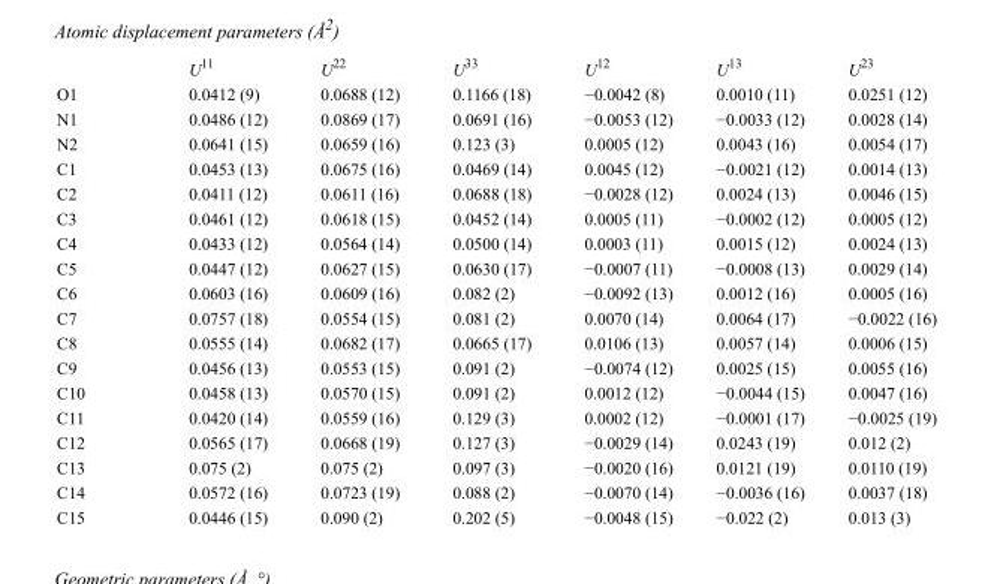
<table><thead><tr><td></td><td>U<sup>11</sup></td><td>U<sup>22</sup></td><td>U<sup>33</sup></td><td>U<sup>12</sup></td><td>U<sup>13</sup></td><td>U<sup>23</sup></td></tr></thead><tbody><tr><td>O1</td><td>0.0412 (9)</td><td>0.0688 (12)</td><td>0.1166 (18)</td><td>−0.0042 (8)</td><td>0.0010 (11)</td><td>0.0251 (12)</td></tr><tr><td>N1</td><td>0.0486 (12)</td><td>0.0869 (17)</td><td>0.0691 (16)</td><td>−0.0053 (12)</td><td>−0.0033 (12)</td><td>0.0028 (14)</td></tr><tr><td>N2</td><td>0.0641 (15)</td><td>0.0659 (16)</td><td>0.123 (3)</td><td>0.0005 (12)</td><td>0.0043 (16)</td><td>0.0054 (17)</td></tr><tr><td>C1</td><td>0.0453 (13)</td><td>0.0675 (16)</td><td>0.0469 (14)</td><td>0.0045 (12)</td><td>−0.0021 (12)</td><td>0.0014 (13)</td></tr><tr><td>C2</td><td>0.0411 (12)</td><td>0.0611 (16)</td><td>0.0688 (18)</td><td>−0.0028 (12)</td><td>0.0024 (13)</td><td>0.0046 (15)</td></tr><tr><td>C3</td><td>0.0461 (12)</td><td>0.0618 (15)</td><td>0.0452 (14)</td><td>0.0005 (11)</td><td>−0.0002 (12)</td><td>0.0005 (12)</td></tr><tr><td>C4</td><td>0.0433 (12)</td><td>0.0564 (14)</td><td>0.0500 (14)</td><td>0.0003 (11)</td><td>0.0015 (12)</td><td>0.0024 (13)</td></tr><tr><td>C5</td><td>0.0447 (12)</td><td>0.0627 (15)</td><td>0.0630 (17)</td><td>−0.0007 (11)</td><td>−0.0008 (13)</td><td>0.0029 (14)</td></tr><tr><td>C6</td><td>0.0603 (16)</td><td>0.0609 (16)</td><td>0.082 (2)</td><td>−0.0092 (13)</td><td>0.0012 (16)</td><td>0.0005 (16)</td></tr><tr><td>C7</td><td>0.0757 (18)</td><td>0.0554 (15)</td><td>0.081 (2)</td><td>0.0070 (14)</td><td>0.0064 (17)</td><td>−0.0022 (16)</td></tr><tr><td>C8</td><td>0.0555 (14)</td><td>0.0682 (17)</td><td>0.0665 (17)</td><td>0.0106 (13)</td><td>0.0057 (14)</td><td>0.0006 (15)</td></tr><tr><td>C9</td><td>0.0456 (13)</td><td>0.0553 (15)</td><td>0.091 (2)</td><td>−0.0074 (12)</td><td>0.0025 (15)</td><td>0.0055 (16)</td></tr><tr><td>C10</td><td>0.0458 (13)</td><td>0.0570 (15)</td><td>0.091 (2)</td><td>0.0012 (12)</td><td>−0.0044 (15)</td><td>0.0047 (16)</td></tr><tr><td>C11</td><td>0.0420 (14)</td><td>0.0559 (16)</td><td>0.129 (3)</td><td>0.0002 (12)</td><td>−0.0001 (17)</td><td>−0.0025 (19)</td></tr><tr><td>C12</td><td>0.0565 (17)</td><td>0.0668 (19)</td><td>0.127 (3)</td><td>−0.0029 (14)</td><td>0.0243 (19)</td><td>0.012 (2)</td></tr><tr><td>C13</td><td>0.075 (2)</td><td>0.075 (2)</td><td>0.097 (3)</td><td>−0.0020 (16)</td><td>0.0121 (19)</td><td>0.0110 (19)</td></tr><tr><td>C14</td><td>0.0572 (16)</td><td>0.0723 (19)</td><td>0.088 (2)</td><td>−0.0070 (14)</td><td>−0.0036 (16)</td><td>0.0037 (18)</td></tr><tr><td>C15</td><td>0.0446 (15)</td><td>0.090 (2)</td><td>0.202 (5)</td><td>−0.0048 (15)</td><td>−0.022 (2)</td><td>0.013 (3)</td></tr></tbody></table>